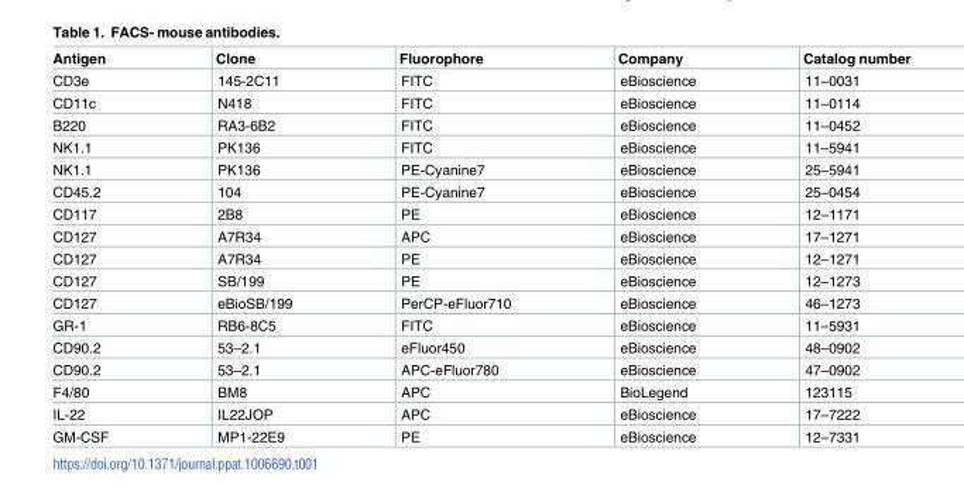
<table><thead><tr><td>Antigen</td><td>Clone</td><td>Fluorophore</td><td>Company</td><td>Catalog number</td></tr></thead><tbody><tr><td>CD3e</td><td>145-2C11</td><td>FITC</td><td>eBioscience</td><td>11–0031</td></tr><tr><td>CD11c</td><td>N418</td><td>FITC</td><td>eBioscience</td><td>11–0114</td></tr><tr><td>B220</td><td>RA3-6B2</td><td>FITC</td><td>eBioscience</td><td>11–0452</td></tr><tr><td>NK1.1</td><td>PK136</td><td>FITC</td><td>eBioscience</td><td>11–5941</td></tr><tr><td>NK1.1</td><td>PK136</td><td>PE-Cyanine7</td><td>eBioscience</td><td>25–5941</td></tr><tr><td>CD45.2</td><td>104</td><td>PE-Cyanine7</td><td>eBioscience</td><td>25–0454</td></tr><tr><td>CD117</td><td>2B8</td><td>PE</td><td>eBioscience</td><td>12–1171</td></tr><tr><td>CD127</td><td>A7R34</td><td>APC</td><td>eBioscience</td><td>17–1271</td></tr><tr><td>CD127</td><td>A7R34</td><td>PE</td><td>eBioscience</td><td>12–1271</td></tr><tr><td>CD127</td><td>SB/199</td><td>PE</td><td>eBioscience</td><td>12–1273</td></tr><tr><td>CD127</td><td>eBioSB/199</td><td>PerCP-eFluor710</td><td>eBioscience</td><td>46–1273</td></tr><tr><td>GR-1</td><td>RB6-8C5</td><td>FITC</td><td>eBioscience</td><td>11–5931</td></tr><tr><td>CD90.2</td><td>53–2.1</td><td>eFluor450</td><td>eBioscience</td><td>48–0902</td></tr><tr><td>CD90.2</td><td>53–2.1</td><td>APC-eFluor780</td><td>eBioscience</td><td>47–0902</td></tr><tr><td>F4/80</td><td>BM8</td><td>APC</td><td>BioLegend</td><td>123115</td></tr><tr><td>IL-22</td><td>IL22JOP</td><td>APC</td><td>eBioscience</td><td>17–7222</td></tr><tr><td>GM-CSF</td><td>MP1-22E9</td><td>PE</td><td>eBioscience</td><td>12–7331</td></tr></tbody></table>